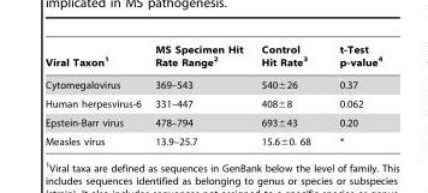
<table><thead><tr><td>Viral Taxon<sup>1</sup></td><td>MS Specimen Hit Rate Range<sup>2</sup></td><td>Control Hit Rate<sup>3</sup></td><td>t-Test p-value<sup>4</sup></td></tr></thead><tbody><tr><td>Cytomegalovirus</td><td>369–543</td><td>540±26</td><td>0.37</td></tr><tr><td>Human herpesvirus-6</td><td>331–447</td><td>408±8</td><td>0.062</td></tr><tr><td>Epstein-Barr virus</td><td>478–794</td><td>693±43</td><td>0.20</td></tr><tr><td>Measles virus</td><td>13.9–25.7</td><td>15.6±0. 68</td><td>*</td></tr></tbody></table>